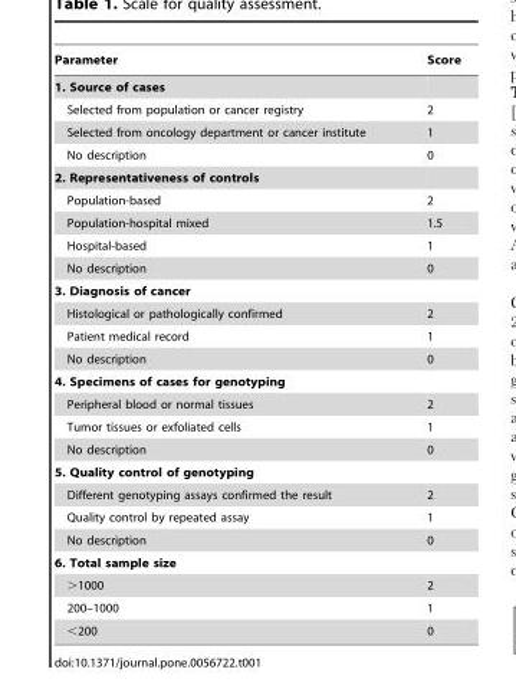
<table><thead><tr><td>Parameter</td><td>Score</td></tr></thead><tbody><tr><td colspan="2">1. Source of cases</td></tr><tr><td>Selected from population or cancer registry</td><td>2</td></tr><tr><td>Selected from oncology department or cancer institute</td><td>1</td></tr><tr><td>No description</td><td>0</td></tr><tr><td colspan="2">2. Representativeness of controls</td></tr><tr><td>Population-based</td><td>2</td></tr><tr><td>Population-hospital mixed</td><td>1.5</td></tr><tr><td>Hospital-based</td><td>1</td></tr><tr><td>No description</td><td>0</td></tr><tr><td colspan="2">3. Diagnosis of cancer</td></tr><tr><td>Histological or pathologically confirmed</td><td>2</td></tr><tr><td>Patient medical record</td><td>1</td></tr><tr><td>No description</td><td>0</td></tr><tr><td colspan="2">4. Specimens of cases for genotyping</td></tr><tr><td>Peripheral blood or normal tissues</td><td>2</td></tr><tr><td>Tumor tissues or exfoliated cells</td><td>1</td></tr><tr><td>No description</td><td>0</td></tr><tr><td colspan="2">5. Quality control of genotyping</td></tr><tr><td>Different genotyping assays confirmed the result</td><td>2</td></tr><tr><td>Quality control by repeated assay</td><td>1</td></tr><tr><td>No description</td><td>0</td></tr><tr><td colspan="2">6. Total sample size</td></tr><tr><td>&gt;1000</td><td>2</td></tr><tr><td>200–1000</td><td>1</td></tr><tr><td>&lt;200</td><td>0</td></tr></tbody></table>